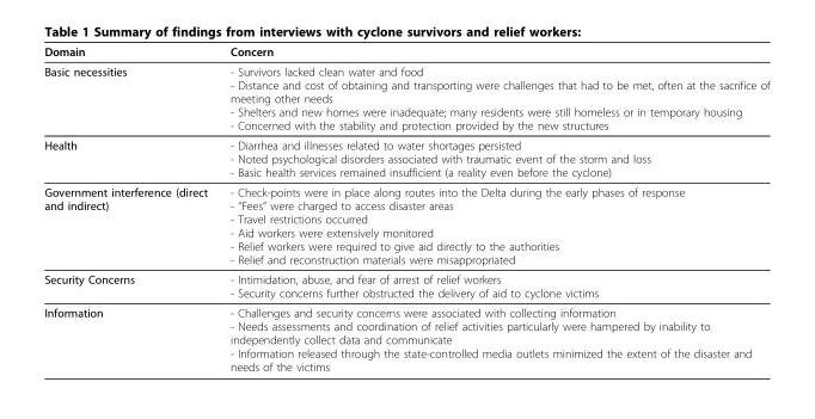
<table><thead><tr><td>Domain</td><td>Concern</td></tr></thead><tbody><tr><td>Basic necessities</td><td>- Survivors lacked clean water and food - Distance and cost of obtaining and transporting were challenges that had to be met, often at the sacrifice of meeting other needs - Shelters and new homes were inadequate; many residents were still homeless or in temporary housing - Concerned with the stability and protection provided by the new structures</td></tr><tr><td>Health</td><td>- Diarrhea and illnesses related to water shortages persisted - Noted psychological disorders associated with traumatic event of the storm and loss - Basic health services remained insufficient (a reality even before the cyclone)</td></tr><tr><td>Government interference (direct and indirect)</td><td>- Check-points were in place along routes into the Delta during the early phases of response - “Fees” were charged to access disaster areas - Travel restrictions occurred - Aid workers were extensively monitored - Relief workers were required to give aid directly to the authorities - Relief and reconstruction materials were misappropriated</td></tr><tr><td>Security Concerns</td><td>- Intimidation, abuse, and fear of arrest of relief workers - Security concerns further obstructed the delivery of aid to cyclone victims</td></tr><tr><td>Information</td><td>- Challenges and security concerns were associated with collecting information - Needs assessments and coordination of relief activities particularly were hampered by inability to independently collect data and communicate - Information released through the state-controlled media outlets minimized the extent of the disaster and needs of the victims</td></tr></tbody></table>